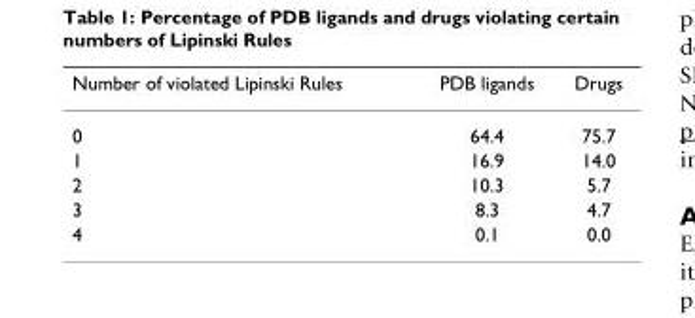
<table><thead><tr><td>Number of violated Lipinski Rules</td><td>PDB ligands</td><td>Drugs</td></tr></thead><tbody><tr><td>0</td><td>64.4</td><td>75.7</td></tr><tr><td>1</td><td>16.9</td><td>14.0</td></tr><tr><td>2</td><td>10.3</td><td>5.7</td></tr><tr><td>3</td><td>8.3</td><td>4.7</td></tr><tr><td>4</td><td>0.1</td><td>0.0</td></tr></tbody></table>